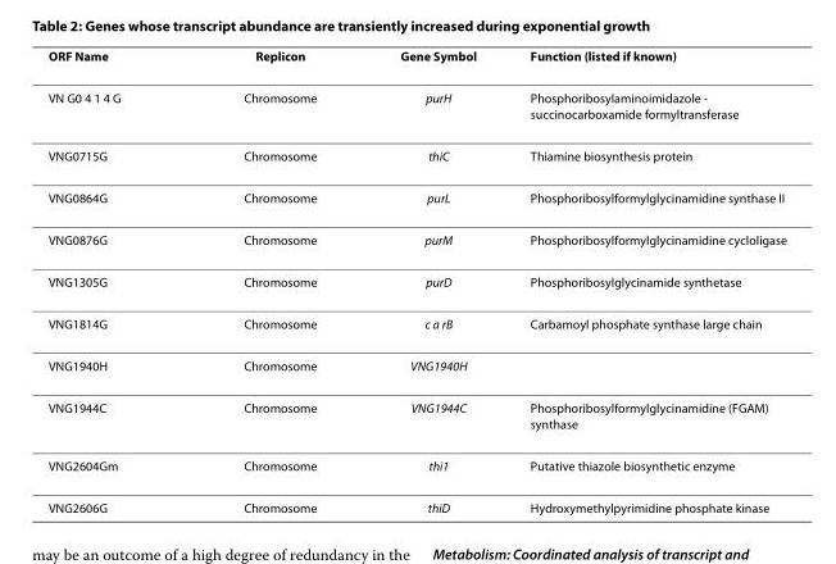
<table><thead><tr><td>ORF Name</td><td>Replicon</td><td>Gene Symbol</td><td>Function (listed if known)</td></tr></thead><tbody><tr><td>VN G0 4 1 4 G</td><td>Chromosome</td><td>purH</td><td>Phosphoribosylaminoimidazole - succinocarboxamide formyltransferase</td></tr><tr><td>VNG0715G</td><td>Chromosome</td><td>thiC</td><td>Thiamine biosynthesis protein</td></tr><tr><td>VNG0864G</td><td>Chromosome</td><td>purL</td><td>Phosphoribosylformylglycinamidine synthase II</td></tr><tr><td>VNG0876G</td><td>Chromosome</td><td>purM</td><td>Phosphoribosylformylglycinamidine cycloligase</td></tr><tr><td>VNG1305G</td><td>Chromosome</td><td>purD</td><td>Phosphoribosylglycinamide synthetase</td></tr><tr><td>VNG1814G</td><td>Chromosome</td><td>c a rB</td><td>Carbamoyl phosphate synthase large chain</td></tr><tr><td>VNG1940H</td><td>Chromosome</td><td>VNG1940H</td><td></td></tr><tr><td>VNG1944C</td><td>Chromosome</td><td>VNG1944C</td><td>Phosphoribosylformylglycinamidine (FGAM) synthase</td></tr><tr><td>VNG2604Gm</td><td>Chromosome</td><td>thi1</td><td>Putative thiazole biosynthetic enzyme</td></tr><tr><td>VNG2606G</td><td>Chromosome</td><td>thiD</td><td>Hydroxymethylpyrimidine phosphate kinase</td></tr></tbody></table>